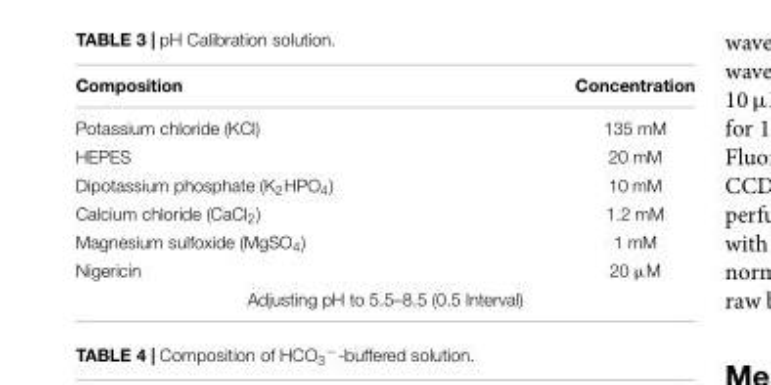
<table><thead><tr><td>Composition</td><td>Concentration</td></tr></thead><tbody><tr><td>Potassium chloride (KCl)</td><td>135 mM</td></tr><tr><td>HEPES</td><td>20 mM</td></tr><tr><td>Dipotassium phosphate (K<sub>2</sub>HPO<sub>4</sub>)</td><td>10 mM</td></tr><tr><td>Calcium chloride (CaCl<sub>2</sub>)</td><td>1.2 mM</td></tr><tr><td>Magnesium sulfoxide (MgSO<sub>4</sub>)</td><td>1 mM</td></tr><tr><td>Nigericin</td><td>20 µM</td></tr><tr><td colspan="2">Adjusting pH to 5.5–8.5 (0.5 Interval)</td></tr></tbody></table>